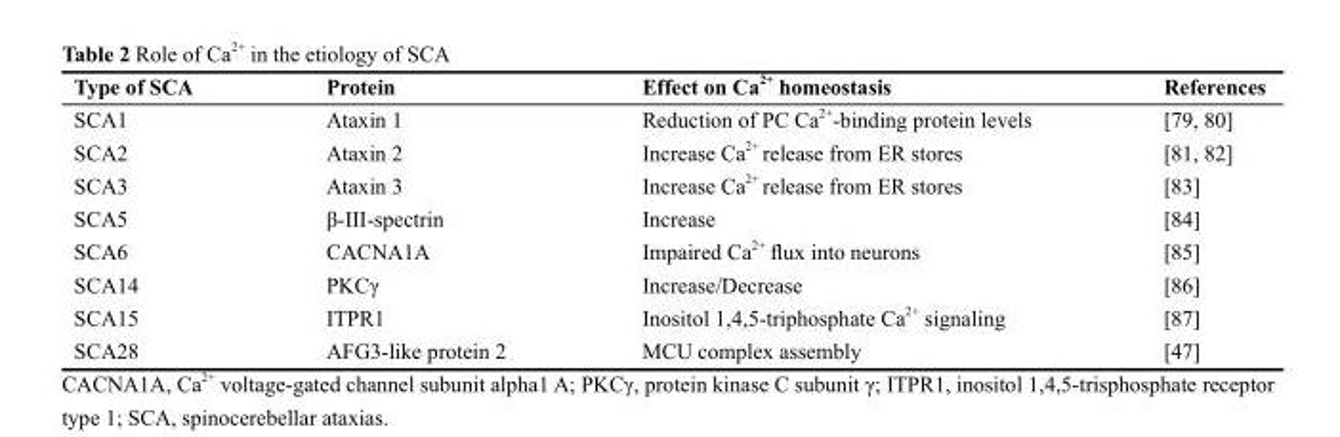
<table><thead><tr><td>Type of SCA</td><td>Protein</td><td>Effect on Ca <sup>2+</sup> homeostasis</td><td>References</td></tr></thead><tbody><tr><td>SCA1</td><td>Ataxin 1</td><td>Reduction of PC Ca <sup>2+</sup>-binding protein levels</td><td>[79, 80]</td></tr><tr><td>SCA2</td><td>Ataxin 2</td><td>Increase Ca <sup>2+</sup> release from ER stores</td><td>[81, 82]</td></tr><tr><td>SCA3</td><td>Ataxin 3</td><td>Increase Ca <sup>2+</sup> release from ER stores</td><td>[83]</td></tr><tr><td>SCA5</td><td>β-III-spectrin</td><td>Increase</td><td>[84]</td></tr><tr><td>SCA6</td><td>CACNA1A</td><td>Impaired Ca <sup>2+</sup> flux into neurons</td><td>[85]</td></tr><tr><td>SCA14</td><td>PKCγ</td><td>Increase/Decrease</td><td>[86]</td></tr><tr><td>SCA15</td><td>ITPR1</td><td>Inositol 1,4,5-triphosphate Ca <sup>2+</sup> signaling</td><td>[87]</td></tr><tr><td>SCA28</td><td>AFG3-like protein 2</td><td>MCU complex assembly</td><td>[47]</td></tr></tbody></table>